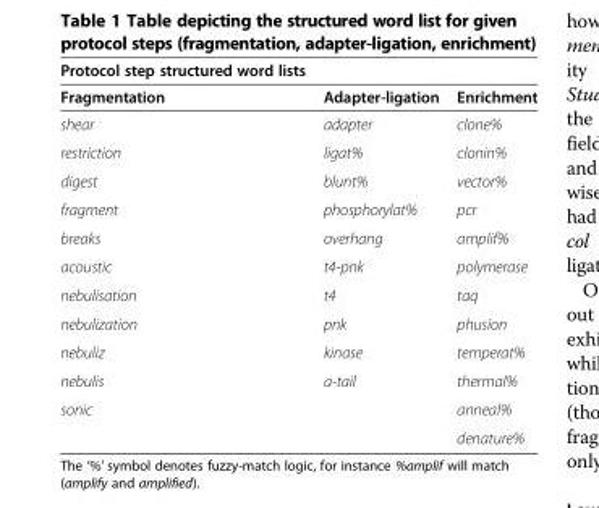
<table><thead><tr><td rowspan="2">Protocol step structured word lists Fragmentation</td><td rowspan="2">Adapter-ligation</td><td rowspan="2">Enrichment</td></tr><tr></tr></thead><tbody><tr><td>shear</td><td>adapter</td><td>clone%</td></tr><tr><td>restriction</td><td>ligat%</td><td>clonin%</td></tr><tr><td>digest</td><td>blunt%</td><td>vector%</td></tr><tr><td>fragment</td><td>phosphorylat%</td><td>pcr</td></tr><tr><td>breaks</td><td>overhang</td><td>amplif%</td></tr><tr><td>acoustic</td><td>t4-pnk</td><td>polymerase</td></tr><tr><td>nebulisation</td><td>t4</td><td>taq</td></tr><tr><td>nebulization</td><td>pnk</td><td>phusion</td></tr><tr><td>nebuliz</td><td>kinase</td><td>temperat%</td></tr><tr><td>nebulis</td><td>a-tail</td><td>thermal%</td></tr><tr><td rowspan="2">sonic</td><td></td><td>anneal%</td></tr><tr><td></td><td>denature%</td></tr></tbody></table>